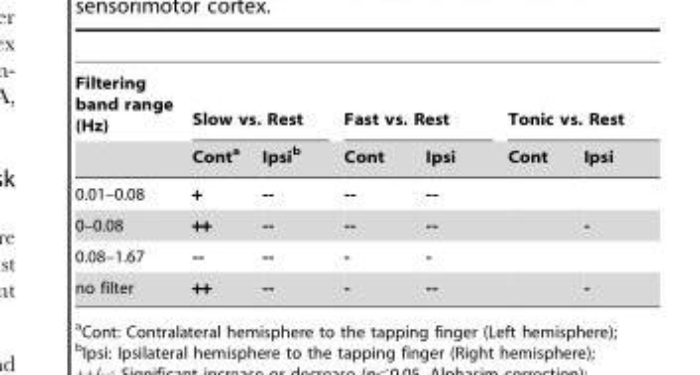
<table><thead><tr><td rowspan="2">Filtering band range (Hz)</td><td colspan="2">Slow vs. Rest</td><td colspan="2">Fast vs. Rest</td><td colspan="2">Tonic vs. Rest</td></tr><tr><td>Cont<sup>a</sup></td><td>Ipsi<sup>b</sup></td><td>Cont</td><td>Ipsi</td><td>Cont</td><td>Ipsi</td></tr></thead><tbody><tr><td>0.01–0.08</td><td>+</td><td>--</td><td>--</td><td>--</td><td></td><td></td></tr><tr><td>0–0.08</td><td>++</td><td>--</td><td>--</td><td>--</td><td></td><td>-</td></tr><tr><td>0.08–1.67</td><td>--</td><td>--</td><td>-</td><td>-</td><td></td><td></td></tr><tr><td>no filter</td><td>++</td><td>--</td><td>-</td><td>--</td><td></td><td>-</td></tr></tbody></table>